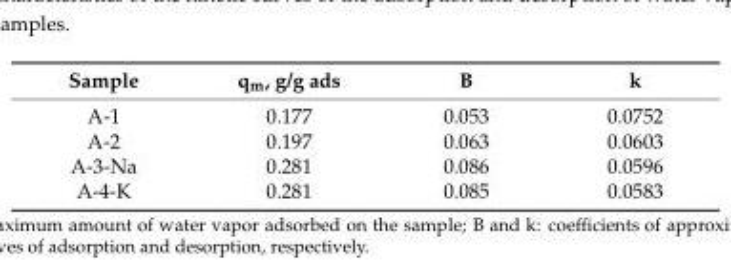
<table><thead><tr><td>Sample</td><td>q<sub>m</sub>, g/g ads</td><td>B</td><td>k</td></tr></thead><tbody><tr><td>A-1</td><td>0.177</td><td>0.053</td><td>0.0752</td></tr><tr><td>A-2</td><td>0.197</td><td>0.063</td><td>0.0603</td></tr><tr><td>A-3-Na</td><td>0.281</td><td>0.086</td><td>0.0596</td></tr><tr><td>A-4-K</td><td>0.281</td><td>0.085</td><td>0.0583</td></tr></tbody></table>